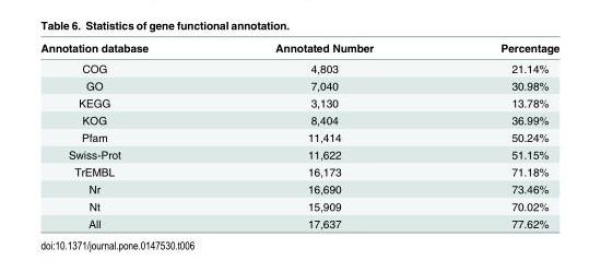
<table><thead><tr><td>Annotation database</td><td>Annotated Number</td><td>Percentage</td></tr></thead><tbody><tr><td>COG</td><td>4,803</td><td>21.14%</td></tr><tr><td>GO</td><td>7,040</td><td>30.98%</td></tr><tr><td>KEGG</td><td>3,130</td><td>13.78%</td></tr><tr><td>KOG</td><td>8,404</td><td>36.99%</td></tr><tr><td>Pfam</td><td>11,414</td><td>50.24%</td></tr><tr><td>Swiss-Prot</td><td>11,622</td><td>51.15%</td></tr><tr><td>TrEMBL</td><td>16,173</td><td>71.18%</td></tr><tr><td>Nr</td><td>16,690</td><td>73.46%</td></tr><tr><td>Nt</td><td>15,909</td><td>70.02%</td></tr><tr><td>All</td><td>17,637</td><td>77.62%</td></tr></tbody></table>